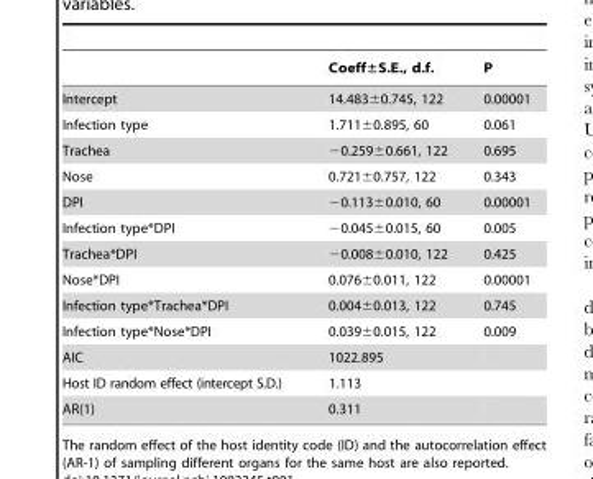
<table><thead><tr><td></td><td>Coeff±S.E., d.f.</td><td>P</td></tr></thead><tbody><tr><td>Intercept</td><td>14.483±0.745, 122</td><td>0.00001</td></tr><tr><td>Infection type</td><td>1.711±0.895, 60</td><td>0.061</td></tr><tr><td>Trachea</td><td>−0.259±0.661, 122</td><td>0.695</td></tr><tr><td>Nose</td><td>0.721±0.757, 122</td><td>0.343</td></tr><tr><td>DPI</td><td>−0.113±0.010, 60</td><td>0.00001</td></tr><tr><td>Infection type*DPI</td><td>−0.045±0.015, 60</td><td>0.005</td></tr><tr><td>Trachea*DPI</td><td>−0.008±0.010, 122</td><td>0.425</td></tr><tr><td>Nose*DPI</td><td>0.076±0.011, 122</td><td>0.00001</td></tr><tr><td>Infection type*Trachea*DPI</td><td>0.004±0.013, 122</td><td>0.745</td></tr><tr><td>Infection type*Nose*DPI</td><td>0.039±0.015, 122</td><td>0.009</td></tr><tr><td>AIC</td><td>1022.895</td><td></td></tr><tr><td>Host ID random effect (intercept S.D.)</td><td>1.113</td><td></td></tr><tr><td>AR(1)</td><td>0.311</td><td></td></tr></tbody></table>